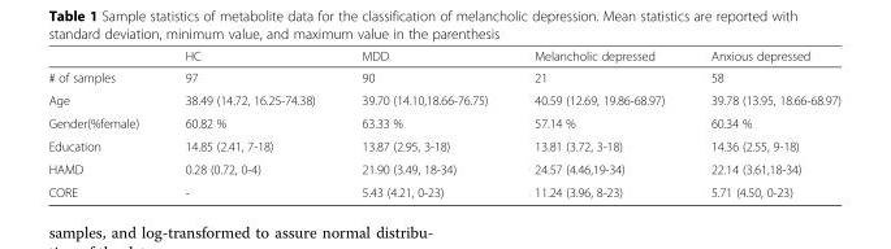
<table><thead><tr><td></td><td>HC</td><td>MDD</td><td>Melancholic depressed</td><td>Anxious depressed</td></tr></thead><tbody><tr><td># of samples</td><td>97</td><td>90</td><td>21</td><td>58</td></tr><tr><td>Age</td><td>38.49 (14.72, 16.25-74.38)</td><td>39.70 (14.10,18.66-76.75)</td><td>40.59 (12.69, 19.86-68.97)</td><td>39.78 (13.95, 18.66-68.97)</td></tr><tr><td>Gender(%female)</td><td>60.82 %</td><td>63.33 %</td><td>57.14 %</td><td>60.34 %</td></tr><tr><td>Education</td><td>14.85 (2.41, 7-18)</td><td>13.87 (2.95, 3-18)</td><td>13.81 (3.72, 3-18)</td><td>14.36 (2.55, 9-18)</td></tr><tr><td>HAMD</td><td>0.28 (0.72, 0-4)</td><td>21.90 (3.49, 18-34)</td><td>24.57 (4.46,19-34)</td><td>22.14 (3.61,18-34)</td></tr><tr><td>CORE</td><td>-</td><td>5.43 (4.21, 0-23)</td><td>11.24 (3.96, 8-23)</td><td>5.71 (4.50, 0-23)</td></tr></tbody></table>